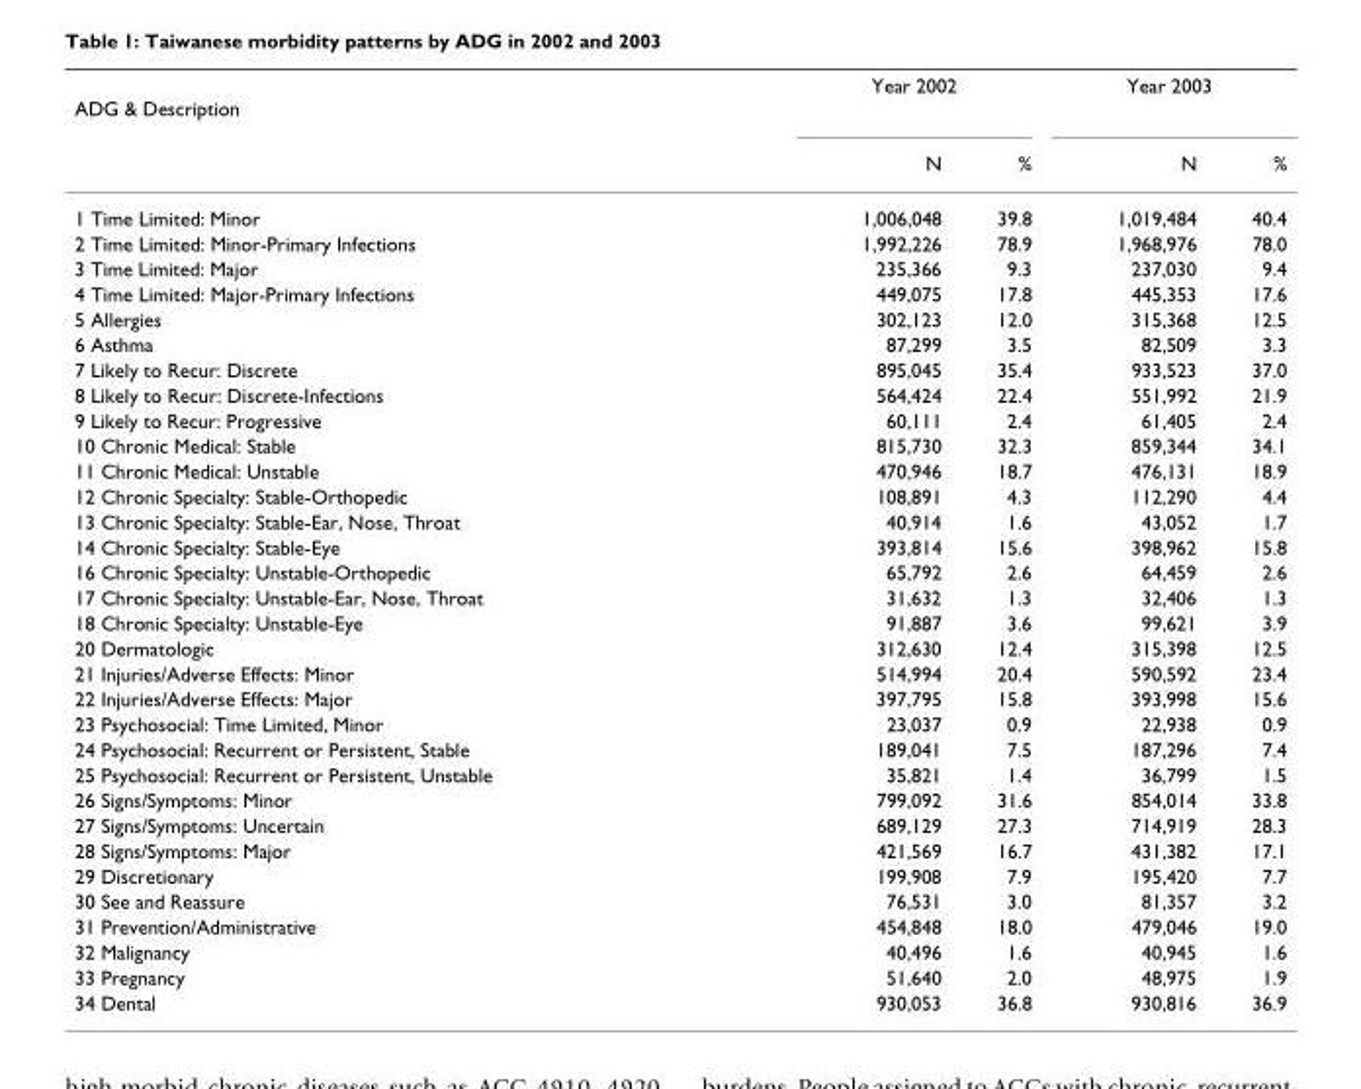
<table><thead><tr><td rowspan="2">ADG &amp; Description</td><td colspan="2">Year 2002</td><td colspan="2">Year 2003</td></tr><tr><td>N</td><td>%</td><td>N</td><td>%</td></tr></thead><tbody><tr><td>1 Time Limited: Minor</td><td>1,006,048</td><td>39.8</td><td>1,019,484</td><td>40.4</td></tr><tr><td>2 Time Limited: Minor-Primary Infections</td><td>1,992,226</td><td>78.9</td><td>1,968,976</td><td>78.0</td></tr><tr><td>3 Time Limited: Major</td><td>235,366</td><td>9.3</td><td>237,030</td><td>9.4</td></tr><tr><td>4 Time Limited: Major-Primary Infections</td><td>449,075</td><td>17.8</td><td>445,353</td><td>17.6</td></tr><tr><td>5 Allergies</td><td>302,123</td><td>12.0</td><td>315,368</td><td>12.5</td></tr><tr><td>6 Asthma</td><td>87,299</td><td>3.5</td><td>82,509</td><td>3.3</td></tr><tr><td>7 Likely to Recur: Discrete</td><td>895,045</td><td>35.4</td><td>933,523</td><td>37.0</td></tr><tr><td>8 Likely to Recur: Discrete-Infections</td><td>564,424</td><td>22.4</td><td>551,992</td><td>21.9</td></tr><tr><td>9 Likely to Recur: Progressive</td><td>60,111</td><td>2.4</td><td>61,405</td><td>2.4</td></tr><tr><td>10 Chronic Medical: Stable</td><td>815,730</td><td>32.3</td><td>859,344</td><td>34.1</td></tr><tr><td>11 Chronic Medical: Unstable</td><td>470,946</td><td>18.7</td><td>476,131</td><td>18.9</td></tr><tr><td>12 Chronic Specialty: Stable-Orthopedic</td><td>108,891</td><td>4.3</td><td>112,290</td><td>4.4</td></tr><tr><td>13 Chronic Specialty: Stable-Ear, Nose, Throat</td><td>40,914</td><td>1.6</td><td>43,052</td><td>1.7</td></tr><tr><td>14 Chronic Specialty: Stable-Eye</td><td>393,814</td><td>15.6</td><td>398,962</td><td>15.8</td></tr><tr><td>16 Chronic Specialty: Unstable-Orthopedic</td><td>65,792</td><td>2.6</td><td>64,459</td><td>2.6</td></tr><tr><td>17 Chronic Specialty: Unstable-Ear, Nose, Throat</td><td>31,632</td><td>1.3</td><td>32,406</td><td>1.3</td></tr><tr><td>18 Chronic Specialty: Unstable-Eye</td><td>91,887</td><td>3.6</td><td>99,621</td><td>3.9</td></tr><tr><td>20 Dermatologic</td><td>312,630</td><td>12.4</td><td>315,398</td><td>12.5</td></tr><tr><td>21 Injuries/Adverse Effects: Minor</td><td>514,994</td><td>20.4</td><td>590,592</td><td>23.4</td></tr><tr><td>22 Injuries/Adverse Effects: Major</td><td>397,795</td><td>15.8</td><td>393,998</td><td>15.6</td></tr><tr><td>23 Psychosocial: Time Limited, Minor</td><td>23,037</td><td>0.9</td><td>22,938</td><td>0.9</td></tr><tr><td>24 Psychosocial: Recurrent or Persistent, Stable</td><td>189,041</td><td>7.5</td><td>187,296</td><td>7.4</td></tr><tr><td>25 Psychosocial: Recurrent or Persistent, Unstable</td><td>35,821</td><td>1.4</td><td>36,799</td><td>1.5</td></tr><tr><td>26 Signs/Symptoms: Minor</td><td>799,092</td><td>31.6</td><td>854,014</td><td>33.8</td></tr><tr><td>27 Signs/Symptoms: Uncertain</td><td>689,129</td><td>27.3</td><td>714,919</td><td>28.3</td></tr><tr><td>28 Signs/Symptoms: Major</td><td>421,569</td><td>16.7</td><td>431,382</td><td>17.1</td></tr><tr><td>29 Discretionary</td><td>199,908</td><td>7.9</td><td>195,420</td><td>7.7</td></tr><tr><td>30 See and Reassure</td><td>76,531</td><td>3.0</td><td>81,357</td><td>3.2</td></tr><tr><td>31 Prevention/Administrative</td><td>454,848</td><td>18.0</td><td>479,046</td><td>19.0</td></tr><tr><td>32 Malignancy</td><td>40,496</td><td>1.6</td><td>40,945</td><td>1.6</td></tr><tr><td>33 Pregnancy</td><td>51,640</td><td>2.0</td><td>48,975</td><td>1.9</td></tr><tr><td>34 Dental</td><td>930,053</td><td>36.8</td><td>930,816</td><td>36.9</td></tr></tbody></table>